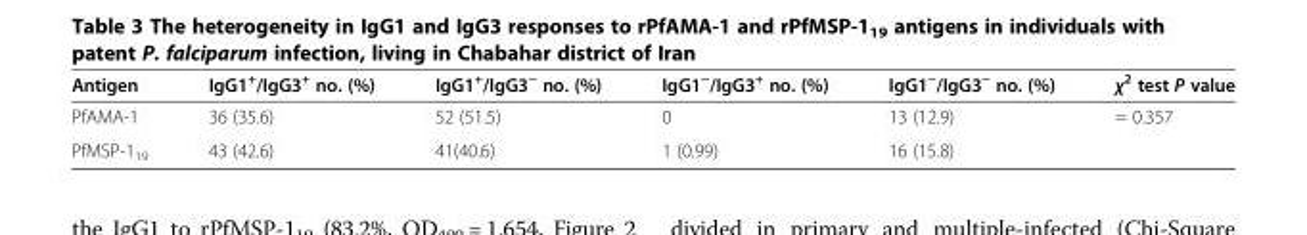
<table><thead><tr><td>Antigen</td><td>IgG1<sup>+</sup>/IgG3<sup>+</sup> no. (%)</td><td>IgG1<sup>+</sup>/IgG3<sup>−</sup> no. (%)</td><td>IgG1<sup>−</sup>/IgG3<sup>+</sup> no. (%)</td><td>IgG1<sup>−</sup>/IgG3<sup>−</sup> no. (%)</td><td>χ<sup>2</sup> test P value</td></tr></thead><tbody><tr><td>PfAMA-1</td><td>36 (35.6)</td><td>52 (51.5)</td><td>0</td><td>13 (12.9)</td><td rowspan="2">= 0.357</td></tr><tr><td>PfMSP-1<sub>19</sub></td><td>43 (42.6)</td><td>41(40.6)</td><td>1 (0.99)</td><td>16 (15.8)</td></tr></tbody></table>